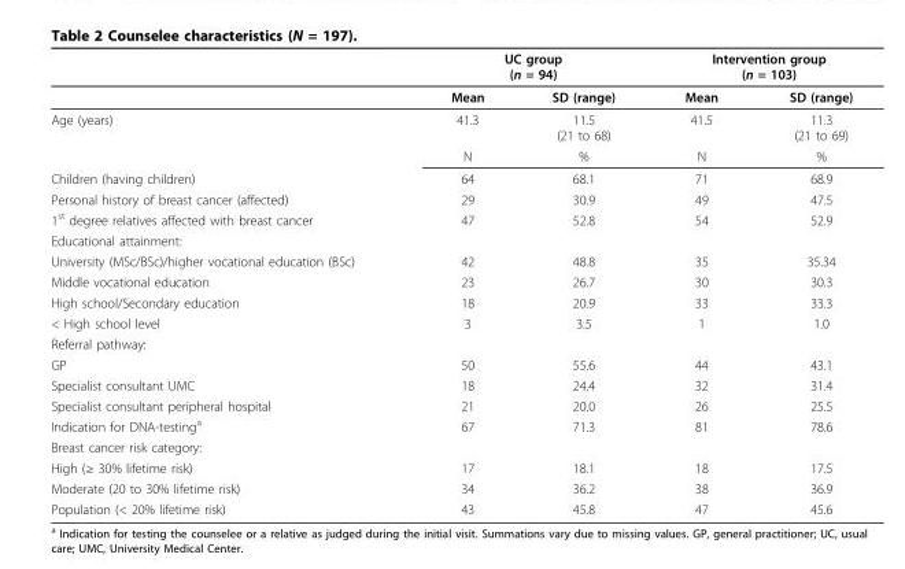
<table><thead><tr><td rowspan="2"></td><td colspan="2">UC group (n = 94)</td><td colspan="2">Intervention group (n = 103)</td></tr><tr><td>Mean</td><td>SD (range)</td><td>Mean</td><td>SD (range)</td></tr></thead><tbody><tr><td rowspan="2">Age (years)</td><td>41.3</td><td>11.5 (21 to 68)</td><td>41.5</td><td>11.3 (21 to 69)</td></tr><tr><td>N</td><td>%</td><td>N</td><td>%</td></tr><tr><td>Children (having children)</td><td>64</td><td>68.1</td><td>71</td><td>68.9</td></tr><tr><td>Personal history of breast cancer (affected)</td><td>29</td><td>30.9</td><td>49</td><td>47.5</td></tr><tr><td>1st degree relatives affected with breast cancer</td><td>47</td><td>52.8</td><td>54</td><td>52.9</td></tr><tr><td colspan="5">Educational attainment:</td></tr><tr><td>University (MSc/BSc)/higher vocational education (BSc)</td><td>42</td><td>48.8</td><td>35</td><td>35.34</td></tr><tr><td>Middle vocational education</td><td>23</td><td>26.7</td><td>30</td><td>30.3</td></tr><tr><td>High school/Secondary education</td><td>18</td><td>20.9</td><td>33</td><td>33.3</td></tr><tr><td>&lt; High school level</td><td>3</td><td>3.5</td><td>1</td><td>1.0</td></tr><tr><td colspan="5">Referral pathway:</td></tr><tr><td>GP</td><td>50</td><td>55.6</td><td>44</td><td>43.1</td></tr><tr><td>Specialist consultant UMC</td><td>18</td><td>24.4</td><td>32</td><td>31.4</td></tr><tr><td>Specialist consultant peripheral hospital</td><td>21</td><td>20.0</td><td>26</td><td>25.5</td></tr><tr><td>Indication for DNA-testinga</td><td>67</td><td>71.3</td><td>81</td><td>78.6</td></tr><tr><td colspan="5">Breast cancer risk category:</td></tr><tr><td>High (≥ 30% lifetime risk)</td><td>17</td><td>18.1</td><td>18</td><td>17.5</td></tr><tr><td>Moderate (20 to 30% lifetime risk)</td><td>34</td><td>36.2</td><td>38</td><td>36.9</td></tr><tr><td>Population (&lt; 20% lifetime risk)</td><td>43</td><td>45.8</td><td>47</td><td>45.6</td></tr></tbody></table>